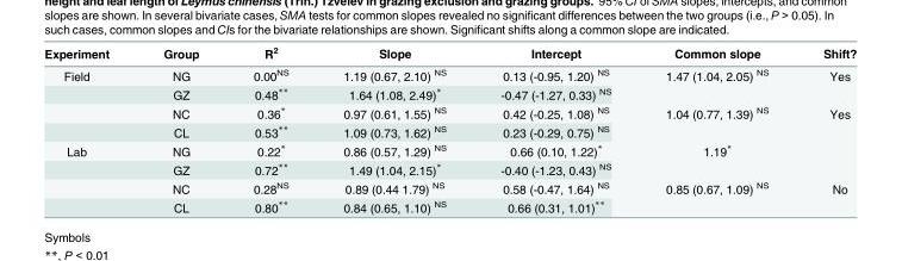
<table><thead><tr><td>Experiment</td><td>Group</td><td>R<sup>2</sup></td><td>Slope</td><td>Intercept</td><td>Common slope</td><td>Shift?</td></tr></thead><tbody><tr><td rowspan="4">Field</td><td>NG</td><td>0.00<sup>NS</sup></td><td>1.19 (0.67, 2.10) <sup>NS</sup></td><td>0.13 (-0.95, 1.20) <sup>NS</sup></td><td rowspan="2">1.47 (1.04, 2.05) <sup>NS</sup></td><td rowspan="2">Yes</td></tr><tr><td>GZ</td><td>0.48**</td><td>1.64 (1.08, 2.49)*</td><td>-0.47 (-1.27, 0.33) <sup>NS</sup></td></tr><tr><td>NC</td><td>0.36*</td><td>0.97 (0.61, 1.55) <sup>NS</sup></td><td>0.42 (-0.25, 1.08) <sup>NS</sup></td><td rowspan="2">1.04 (0.77, 1.39) <sup>NS</sup></td><td rowspan="2">Yes</td></tr><tr><td>CL</td><td>0.53**</td><td>1.09 (0.73, 1.62) <sup>NS</sup></td><td>0.23 (-0.29, 0.75) <sup>NS</sup></td></tr><tr><td rowspan="4">Lab</td><td>NG</td><td>0.22*</td><td>0.86 (0.57, 1.29) <sup>NS</sup></td><td>0.66 (0.10, 1.22)*</td><td rowspan="2">1.19*</td><td rowspan="2"></td></tr><tr><td>GZ</td><td>0.72**</td><td>1.49 (1.04, 2.15)*</td><td>-0.40 (-1.23, 0.43) <sup>NS</sup></td></tr><tr><td>NC</td><td>0.28<sup>NS</sup></td><td>0.89 (0.44 1.79) <sup>NS</sup></td><td>0.58 (-0.47, 1.64) <sup>NS</sup></td><td rowspan="2">0.85 (0.67, 1.09) <sup>NS</sup></td><td rowspan="2">No</td></tr><tr><td>CL</td><td>0.80**</td><td>0.84 (0.65, 1.10) <sup>NS</sup></td><td>0.66 (0.31, 1.01)**</td></tr></tbody></table>